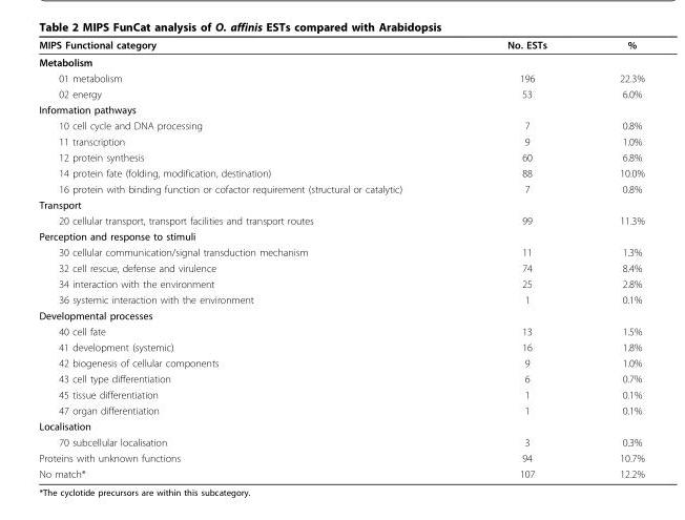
<table><thead><tr><td>MIPS Functional category</td><td>No. ESTs</td><td>%</td></tr></thead><tbody><tr><td colspan="3">Metabolism</td></tr><tr><td>01 metabolism</td><td>196</td><td>22.3%</td></tr><tr><td>02 energy</td><td>53</td><td>6.0%</td></tr><tr><td colspan="3">Information pathways</td></tr><tr><td>10 cell cycle and DNA processing</td><td>7</td><td>0.8%</td></tr><tr><td>11 transcription</td><td>9</td><td>1.0%</td></tr><tr><td>12 protein synthesis</td><td>60</td><td>6.8%</td></tr><tr><td>14 protein fate (folding, modification, destination)</td><td>88</td><td>10.0%</td></tr><tr><td>16 protein with binding function or cofactor requirement (structural or catalytic)</td><td>7</td><td>0.8%</td></tr><tr><td colspan="3">Transport</td></tr><tr><td>20 cellular transport, transport facilities and transport routes</td><td>99</td><td>11.3%</td></tr><tr><td colspan="3">Perception and response to stimuli</td></tr><tr><td>30 cellular communication/signal transduction mechanism</td><td>11</td><td>1.3%</td></tr><tr><td>32 cell rescue, defense and virulence</td><td>74</td><td>8.4%</td></tr><tr><td>34 interaction with the environment</td><td>25</td><td>2.8%</td></tr><tr><td>36 systemic interaction with the environment</td><td>1</td><td>0.1%</td></tr><tr><td colspan="3">Developmental processes</td></tr><tr><td>40 cell fate</td><td>13</td><td>1.5%</td></tr><tr><td>41 development (systemic)</td><td>16</td><td>1.8%</td></tr><tr><td>42 biogenesis of cellular components</td><td>9</td><td>1.0%</td></tr><tr><td>43 cell type differentiation</td><td>6</td><td>0.7%</td></tr><tr><td>45 tissue differentiation</td><td>1</td><td>0.1%</td></tr><tr><td>47 organ differentiation</td><td>1</td><td>0.1%</td></tr><tr><td colspan="3">Localisation</td></tr><tr><td>70 subcellular localisation</td><td>3</td><td>0.3%</td></tr><tr><td>Proteins with unknown functions</td><td>94</td><td>10.7%</td></tr><tr><td>No match*</td><td>107</td><td>12.2%</td></tr></tbody></table>